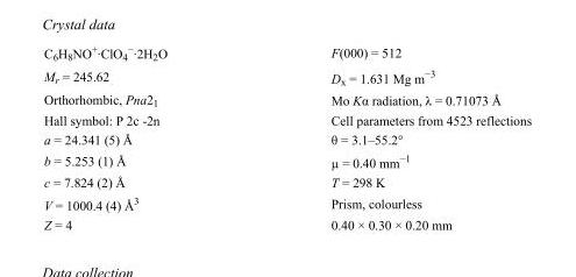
<table><tbody><tr><td>C<sub>6</sub>H<sub>8</sub>NO<sup>+</sup>·ClO<sub>4</sub> <sup>−</sup>·2H<sub>2</sub>O</td><td>F(000) = 512</td></tr><tr><td>M<sub>r</sub> = 245.62</td><td>D<sub>x</sub> = 1.631 Mg m<sup>−3</sup></td></tr><tr><td>Orthorhombic, Pna2<sub>1</sub></td><td>Mo Kα radiation, λ = 0.71073 Å</td></tr><tr><td>Hall symbol: P 2c -2n</td><td>Cell parameters from 4523 reflections</td></tr><tr><td>a = 24.341 (5) Å</td><td>θ = 3.1–55.2°</td></tr><tr><td>b = 5.253 (1) Å</td><td>µ = 0.40 mm<sup>−1</sup></td></tr><tr><td>c = 7.824 (2) Å</td><td>T = 298 K</td></tr><tr><td>V = 1000.4 (4) Å<sup>3</sup></td><td>Prism, colourless</td></tr><tr><td>Z = 4</td><td>0.40 × 0.30 × 0.20 mm</td></tr></tbody></table>